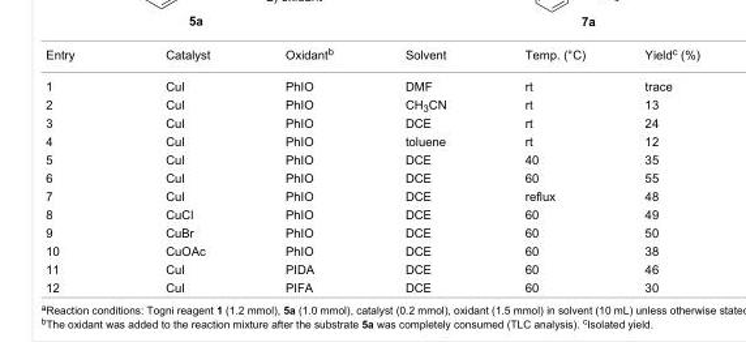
<table><tbody><tr><td>Entry</td><td>Catalyst</td><td>Oxidant<sup>b</sup></td><td>Solvent</td><td>Temp. (°C)</td><td>Yield<sup>c</sup> (%)</td></tr><tr><td>1</td><td>CuI</td><td>PhIO</td><td>DMF</td><td>rt</td><td>trace</td></tr><tr><td>2</td><td>CuI</td><td>PhIO</td><td>CH<sub>3</sub>CN</td><td>rt</td><td>13</td></tr><tr><td>3</td><td>CuI</td><td>PhIO</td><td>DCE</td><td>rt</td><td>24</td></tr><tr><td>4</td><td>CuI</td><td>PhIO</td><td>toluene</td><td>rt</td><td>12</td></tr><tr><td>5</td><td>CuI</td><td>PhIO</td><td>DCE</td><td>40</td><td>35</td></tr><tr><td>6</td><td>CuI</td><td>PhIO</td><td>DCE</td><td>60</td><td>55</td></tr><tr><td>7</td><td>CuI</td><td>PhIO</td><td>DCE</td><td>reflux</td><td>48</td></tr><tr><td>8</td><td>CuCl</td><td>PhIO</td><td>DCE</td><td>60</td><td>49</td></tr><tr><td>9</td><td>CuBr</td><td>PhIO</td><td>DCE</td><td>60</td><td>50</td></tr><tr><td>10</td><td>CuOAc</td><td>PhIO</td><td>DCE</td><td>60</td><td>38</td></tr><tr><td>11</td><td>CuI</td><td>PIDA</td><td>DCE</td><td>60</td><td>46</td></tr><tr><td>12</td><td>CuI</td><td>PIFA</td><td>DCE</td><td>60</td><td>30</td></tr></tbody></table>